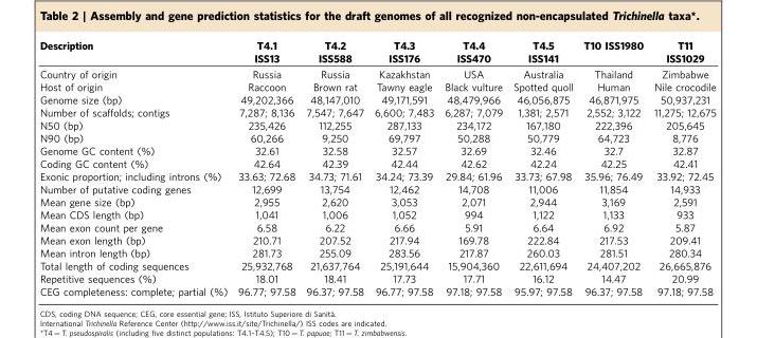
<table><thead><tr><td>Description</td><td>T4.1 ISS13</td><td>T4.2 ISS588</td><td>T4.3 ISS176</td><td>T4.4 ISS470</td><td>T4.5 ISS141</td><td>T10 ISS1980</td><td>T11 ISS1029</td></tr></thead><tbody><tr><td>Country of origin</td><td>Russia</td><td>Russia</td><td>Kazakhstan</td><td>USA</td><td>Australia</td><td>Thailand</td><td>Zimbabwe</td></tr><tr><td>Host of origin</td><td>Raccoon</td><td>Brown rat</td><td>Tawny eagle</td><td>Black vulture</td><td>Spotted quoll</td><td>Human</td><td>Nile crocodile</td></tr><tr><td>Genome size (bp)</td><td>49,202,366</td><td>48,147,010</td><td>49,171,591</td><td>48,479,966</td><td>46,056,875</td><td>46,871,975</td><td>50,937,231</td></tr><tr><td>Number of scaffolds; contigs</td><td>7,287; 8,136</td><td>7,547; 7,647</td><td>6,600; 7,483</td><td>6,287; 7,079</td><td>1,381; 2,571</td><td>2,552; 3,122</td><td>11,275; 12,675</td></tr><tr><td>N50 (bp)</td><td>235,426</td><td>112,255</td><td>287,133</td><td>234,172</td><td>167,180</td><td>222,396</td><td>205,645</td></tr><tr><td>N90 (bp)</td><td>60,266</td><td>9,250</td><td>69,797</td><td>50,288</td><td>50,779</td><td>64,723</td><td>8,776</td></tr><tr><td>Genome GC content (%)</td><td>32.61</td><td>32.58</td><td>32.57</td><td>32.69</td><td>32.46</td><td>32.7</td><td>32.87</td></tr><tr><td>Coding GC content (%)</td><td>42.64</td><td>42.39</td><td>42.44</td><td>42.62</td><td>42.24</td><td>42.25</td><td>42.41</td></tr><tr><td>Exonic proportion; including introns (%)</td><td>33.63; 72.68</td><td>34.73; 71.61</td><td>34.24; 73.39</td><td>29.84; 61.96</td><td>33.73; 67.98</td><td>35.96; 76.49</td><td>33.92; 72.45</td></tr><tr><td>Number of putative coding genes</td><td>12,699</td><td>13,754</td><td>12,462</td><td>14,708</td><td>11,006</td><td>11,854</td><td>14,933</td></tr><tr><td>Mean gene size (bp)</td><td>2,955</td><td>2,620</td><td>3,053</td><td>2,071</td><td>2,944</td><td>3,169</td><td>2,591</td></tr><tr><td>Mean CDS length (bp)</td><td>1,041</td><td>1,006</td><td>1,052</td><td>994</td><td>1,122</td><td>1,133</td><td>933</td></tr><tr><td>Mean exon count per gene</td><td>6.58</td><td>6.22</td><td>6.66</td><td>5.91</td><td>6.64</td><td>6.92</td><td>5.87</td></tr><tr><td>Mean exon length (bp)</td><td>210.71</td><td>207.52</td><td>217.94</td><td>169.78</td><td>222.84</td><td>217.53</td><td>209.41</td></tr><tr><td>Mean intron length (bp)</td><td>281.73</td><td>255.09</td><td>283.56</td><td>217.87</td><td>260.03</td><td>281.51</td><td>280.34</td></tr><tr><td>Total length of coding sequences</td><td>25,932,768</td><td>21,637,764</td><td>25,191,644</td><td>15,904,360</td><td>22,611,694</td><td>24,407,202</td><td>26,665,876</td></tr><tr><td>Repetitive sequences (%)</td><td>18.01</td><td>18.41</td><td>17.73</td><td>17.71</td><td>16.12</td><td>14.47</td><td>20.99</td></tr><tr><td>CEG completeness: complete; partial (%)</td><td>96.77; 97.58</td><td>96.37; 97.58</td><td>96.77; 97.58</td><td>97.18; 97.58</td><td>95.97; 97.58</td><td>96.37; 97.58</td><td>97.18; 97.58</td></tr></tbody></table>